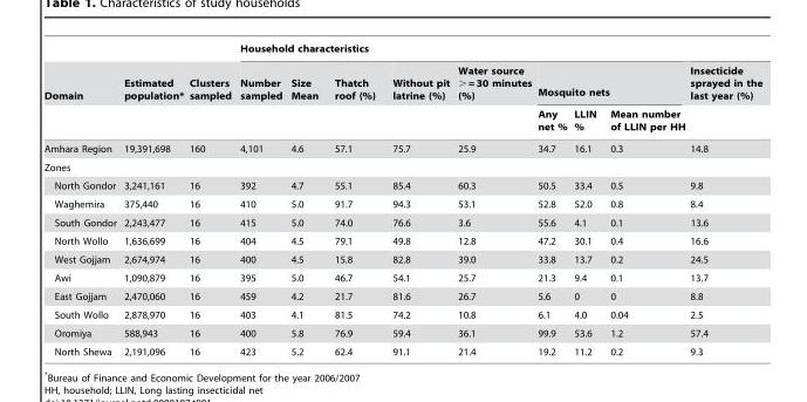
<table><thead><tr><td rowspan="3">Domain</td><td rowspan="3">Estimated population*</td><td rowspan="3">Clusters sampled</td><td colspan="9">Household characteristics</td></tr><tr><td rowspan="2">Number sampled</td><td rowspan="2">Size Mean</td><td rowspan="2">Thatch roof (%)</td><td rowspan="2">Without pit latrine (%)</td><td rowspan="2">Water source &gt; = 30 minutes (%)</td><td colspan="3">Mosquito nets</td><td rowspan="2">Insecticide sprayed in the last year (%)</td></tr><tr><td>Any net %</td><td>LLIN %</td><td>Mean number of LLIN per HH</td></tr></thead><tbody><tr><td>Amhara Region</td><td>19,391,698</td><td>160</td><td>4,101</td><td>4.6</td><td>57.1</td><td>75.7</td><td>25.9</td><td>34.7</td><td>16.1</td><td>0.3</td><td>14.8</td></tr><tr><td colspan="12">Zones</td></tr><tr><td>North Gondor</td><td>3,241,161</td><td>16</td><td>392</td><td>4.7</td><td>55.1</td><td>85.4</td><td>60.3</td><td>50.5</td><td>33.4</td><td>0.5</td><td>9.8</td></tr><tr><td>Waghemira</td><td>375,440</td><td>16</td><td>410</td><td>5.0</td><td>91.7</td><td>94.3</td><td>53.1</td><td>52.8</td><td>52.0</td><td>0.8</td><td>8.4</td></tr><tr><td>South Gondor</td><td>2,243,477</td><td>16</td><td>415</td><td>5.0</td><td>74.0</td><td>76.6</td><td>3.6</td><td>55.6</td><td>4.1</td><td>0.1</td><td>13.6</td></tr><tr><td>North Wollo</td><td>1,636,699</td><td>16</td><td>404</td><td>4.5</td><td>79.1</td><td>49.8</td><td>12.8</td><td>47.2</td><td>30.1</td><td>0.4</td><td>16.6</td></tr><tr><td>West Gojjam</td><td>2,674,974</td><td>16</td><td>400</td><td>4.5</td><td>15.8</td><td>82.8</td><td>39.0</td><td>33.8</td><td>13.7</td><td>0.2</td><td>24.5</td></tr><tr><td>Awi</td><td>1,090,879</td><td>16</td><td>395</td><td>5.0</td><td>46.7</td><td>54.1</td><td>25.7</td><td>21.3</td><td>9.4</td><td>0.1</td><td>13.7</td></tr><tr><td>East Gojjam</td><td>2,470,060</td><td>16</td><td>459</td><td>4.2</td><td>21.7</td><td>81.6</td><td>26.7</td><td>5.6</td><td>0</td><td>0</td><td>8.8</td></tr><tr><td>South Wollo</td><td>2,878,970</td><td>16</td><td>403</td><td>4.1</td><td>81.5</td><td>74.2</td><td>10.8</td><td>6.1</td><td>4.0</td><td>0.04</td><td>2.5</td></tr><tr><td>Oromiya</td><td>588,943</td><td>16</td><td>400</td><td>5.8</td><td>76.9</td><td>59.4</td><td>36.1</td><td>99.9</td><td>53.6</td><td>1.2</td><td>57.4</td></tr><tr><td>North Shewa</td><td>2,191,096</td><td>16</td><td>423</td><td>5.2</td><td>62.4</td><td>91.1</td><td>21.4</td><td>19.2</td><td>11.2</td><td>0.2</td><td>9.3</td></tr></tbody></table>